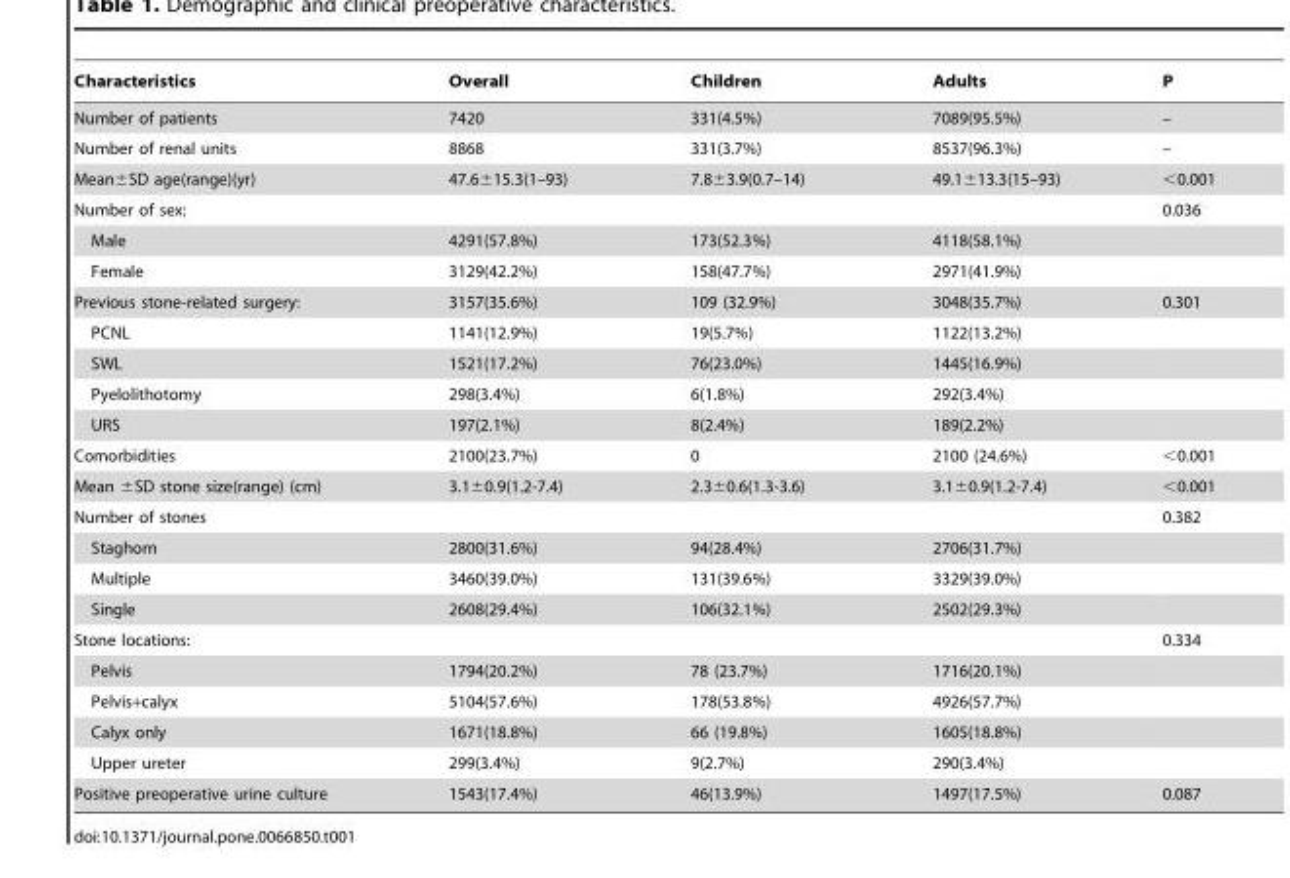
<table><thead><tr><td>Characteristics</td><td>Overall</td><td>Children</td><td>Adults</td><td>P</td></tr></thead><tbody><tr><td>Number of patients</td><td>7420</td><td>331(4.5%)</td><td>7089(95.5%)</td><td>–</td></tr><tr><td>Number of renal units</td><td>8868</td><td>331(3.7%)</td><td>8537(96.3%)</td><td>–</td></tr><tr><td>Mean±SD age(range)(yr)</td><td>47.6±15.3(1–93)</td><td>7.8±3.9(0.7–14)</td><td>49.1±13.3(15–93)</td><td>&lt;0.001</td></tr><tr><td>Number of sex:</td><td></td><td></td><td></td><td>0.036</td></tr><tr><td>Male</td><td>4291(57.8%)</td><td>173(52.3%)</td><td>4118(58.1%)</td><td></td></tr><tr><td>Female</td><td>3129(42.2%)</td><td>158(47.7%)</td><td>2971(41.9%)</td><td></td></tr><tr><td>Previous stone-related surgery:</td><td>3157(35.6%)</td><td>109 (32.9%)</td><td>3048(35.7%)</td><td>0.301</td></tr><tr><td>PCNL</td><td>1141(12.9%)</td><td>19(5.7%)</td><td>1122(13.2%)</td><td></td></tr><tr><td>SWL</td><td>1521(17.2%)</td><td>76(23.0%)</td><td>1445(16.9%)</td><td></td></tr><tr><td>Pyelolithotomy</td><td>298(3.4%)</td><td>6(1.8%)</td><td>292(3.4%)</td><td></td></tr><tr><td>URS</td><td>197(2.1%)</td><td>8(2.4%)</td><td>189(2.2%)</td><td></td></tr><tr><td>Comorbidities</td><td>2100(23.7%)</td><td>0</td><td>2100 (24.6%)</td><td>&lt;0.001</td></tr><tr><td>Mean ±SD stone size(range) (cm)</td><td>3.1±0.9(1.2-7.4)</td><td>2.3±0.6(1.3-3.6)</td><td>3.1±0.9(1.2-7.4)</td><td>&lt;0.001</td></tr><tr><td>Number of stones</td><td></td><td></td><td></td><td>0.382</td></tr><tr><td>Staghorn</td><td>2800(31.6%)</td><td>94(28.4%)</td><td>2706(31.7%)</td><td></td></tr><tr><td>Multiple</td><td>3460(39.0%)</td><td>131(39.6%)</td><td>3329(39.0%)</td><td></td></tr><tr><td>Single</td><td>2608(29.4%)</td><td>106(32.1%)</td><td>2502(29.3%)</td><td></td></tr><tr><td>Stone locations:</td><td></td><td></td><td></td><td>0.334</td></tr><tr><td>Pelvis</td><td>1794(20.2%)</td><td>78 (23.7%)</td><td>1716(20.1%)</td><td></td></tr><tr><td>Pelvis+calyx</td><td>5104(57.6%)</td><td>178(53.8%)</td><td>4926(57.7%)</td><td></td></tr><tr><td>Calyx only</td><td>1671(18.8%)</td><td>66 (19.8%)</td><td>1605(18.8%)</td><td></td></tr><tr><td>Upper ureter</td><td>299(3.4%)</td><td>9(2.7%)</td><td>290(3.4%)</td><td></td></tr><tr><td>Positive preoperative urine culture</td><td>1543(17.4%)</td><td>46(13.9%)</td><td>1497(17.5%)</td><td>0.087</td></tr></tbody></table>